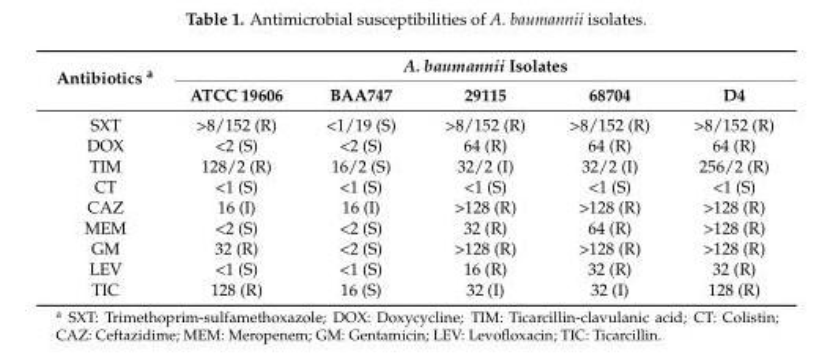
<table><thead><tr><td rowspan="2">Antibiotics <sup>a</sup></td><td colspan="5">A. baumannii Isolates</td></tr><tr><td>ATCC 19606</td><td>BAA747</td><td>29115</td><td>68704</td><td>D4</td></tr></thead><tbody><tr><td>SXT</td><td>&gt;8/152 (R)</td><td>&lt;1/19 (S)</td><td>&gt;8/152 (R)</td><td>&gt;8/152 (R)</td><td>&gt;8/152 (R)</td></tr><tr><td>DOX</td><td>&lt;2 (S)</td><td>&lt;2 (S)</td><td>64 (R)</td><td>64 (R)</td><td>64 (R)</td></tr><tr><td>TIM</td><td>128/2 (R)</td><td>16/2 (S)</td><td>32/2 (I)</td><td>32/2 (I)</td><td>256/2 (R)</td></tr><tr><td>CT</td><td>&lt;1 (S)</td><td>&lt;1 (S)</td><td>&lt;1 (S)</td><td>&lt;1 (S)</td><td>&lt;1 (S)</td></tr><tr><td>CAZ</td><td>16 (I)</td><td>16 (I)</td><td>&gt;128 (R)</td><td>&gt;128 (R)</td><td>&gt;128 (R)</td></tr><tr><td>MEM</td><td>&lt;2 (S)</td><td>&lt;2 (S)</td><td>32 (R)</td><td>64 (R)</td><td>&gt;128 (R)</td></tr><tr><td>GM</td><td>32 (R)</td><td>&lt;2 (S)</td><td>&gt;128 (R)</td><td>&gt;128 (R)</td><td>&gt;128 (R)</td></tr><tr><td>LEV</td><td>&lt;1 (S)</td><td>&lt;1 (S)</td><td>16 (R)</td><td>32 (R)</td><td>32 (R)</td></tr><tr><td>TIC</td><td>128 (R)</td><td>16 (S)</td><td>32 (I)</td><td>32 (I)</td><td>128 (R)</td></tr></tbody></table>